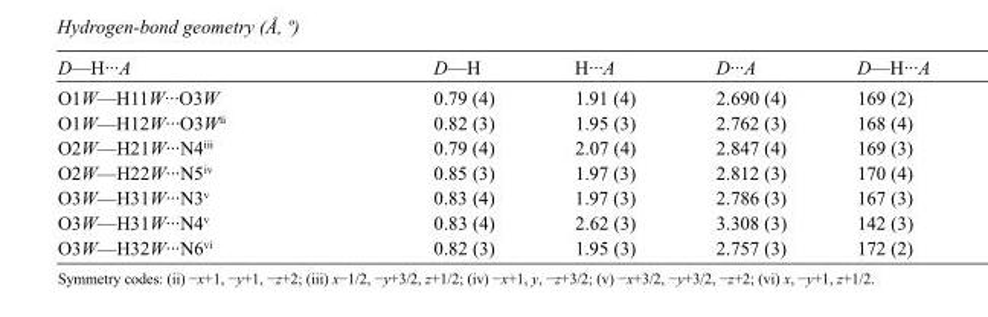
<table><tbody><tr><td>D—H···A</td><td>D—H</td><td>H···A</td><td>D···A</td><td>D—H···A</td></tr><tr><td>O1W—H11W···O3W</td><td>0.79 (4)</td><td>1.91 (4)</td><td>2.690 (4)</td><td>169 (2)</td></tr><tr><td>O1W—H12W···O3W<sup>ii</sup></td><td>0.82 (3)</td><td>1.95 (3)</td><td>2.762 (3)</td><td>168 (4)</td></tr><tr><td>O2W—H21W···N4<sup>iii</sup></td><td>0.79 (4)</td><td>2.07 (4)</td><td>2.847 (4)</td><td>169 (3)</td></tr><tr><td>O2W—H22W···N5<sup>iv</sup></td><td>0.85 (3)</td><td>1.97 (3)</td><td>2.812 (3)</td><td>170 (4)</td></tr><tr><td>O3W—H31W···N3<sup>v</sup></td><td>0.83 (4)</td><td>1.97 (3)</td><td>2.786 (3)</td><td>167 (3)</td></tr><tr><td>O3W—H31W···N4<sup>v</sup></td><td>0.83 (4)</td><td>2.62 (3)</td><td>3.308 (3)</td><td>142 (3)</td></tr><tr><td>O3W—H32W···N6<sup>vi</sup></td><td>0.82 (3)</td><td>1.95 (3)</td><td>2.757 (3)</td><td>172 (2)</td></tr></tbody></table>